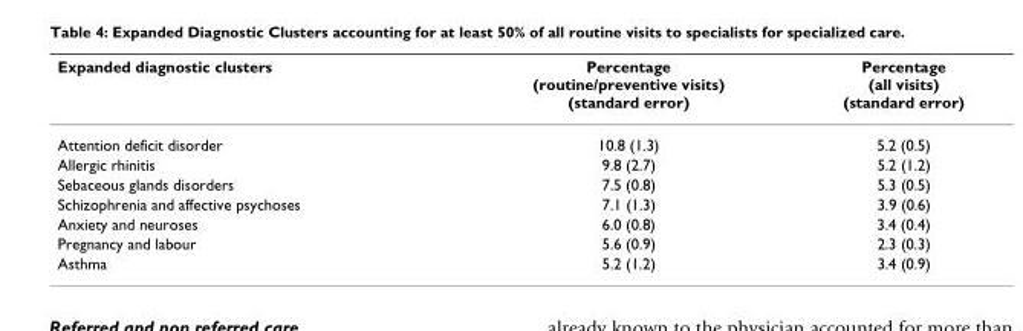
<table><thead><tr><td>Expanded diagnostic clusters</td><td>Percentage (routine/preventive visits) (standard error)</td><td>Percentage (all visits) (standard error)</td></tr></thead><tbody><tr><td>Attention deficit disorder</td><td>10.8 (1.3)</td><td>5.2 (0.5)</td></tr><tr><td>Allergic rhinitis</td><td>9.8 (2.7)</td><td>5.2 (1.2)</td></tr><tr><td>Sebaceous glands disorders</td><td>7.5 (0.8)</td><td>5.3 (0.5)</td></tr><tr><td>Schizophrenia and affective psychoses</td><td>7.1 (1.3)</td><td>3.9 (0.6)</td></tr><tr><td>Anxiety and neuroses</td><td>6.0 (0.8)</td><td>3.4 (0.4)</td></tr><tr><td>Pregnancy and labour</td><td>5.6 (0.9)</td><td>2.3 (0.3)</td></tr><tr><td>Asthma</td><td>5.2 (1.2)</td><td>3.4 (0.9)</td></tr></tbody></table>